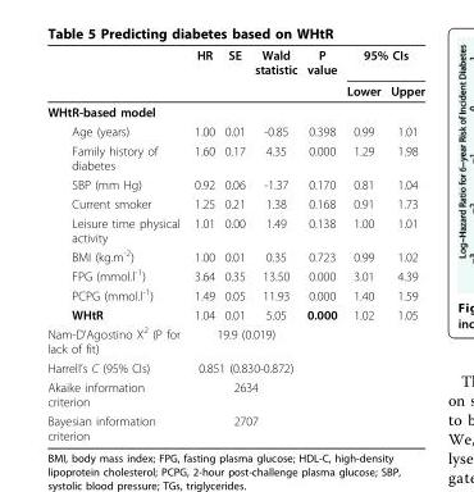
<table><thead><tr><td rowspan="2"></td><td rowspan="2">HR</td><td rowspan="2">SE</td><td rowspan="2">Wald statistic</td><td rowspan="2">P value</td><td colspan="2">95% CIs</td></tr><tr><td>Lower</td><td>Upper</td></tr></thead><tbody><tr><td colspan="7">WHtR-based model</td></tr><tr><td>Age (years)</td><td>1.00</td><td>0.01</td><td>-0.85</td><td>0.398</td><td>0.99</td><td>1.01</td></tr><tr><td>Family history of diabetes</td><td>1.60</td><td>0.17</td><td>4.35</td><td>0.000</td><td>1.29</td><td>1.98</td></tr><tr><td>SBP (mm Hg)</td><td>0.92</td><td>0.06</td><td>-1.37</td><td>0.170</td><td>0.81</td><td>1.04</td></tr><tr><td>Current smoker</td><td>1.25</td><td>0.21</td><td>1.38</td><td>0.168</td><td>0.91</td><td>1.73</td></tr><tr><td>Leisure time physical activity</td><td>1.01</td><td>0.00</td><td>1.49</td><td>0.138</td><td>1.00</td><td>1.01</td></tr><tr><td>BMI (kg.m<sup>-2</sup>)</td><td>1.00</td><td>0.01</td><td>0.35</td><td>0.723</td><td>0.99</td><td>1.02</td></tr><tr><td>FPG (mmol.l<sup>-1</sup>)</td><td>3.64</td><td>0.35</td><td>13.50</td><td>0.000</td><td>3.01</td><td>4.39</td></tr><tr><td>PCPG (mmol.l<sup>-1</sup>)</td><td>1.49</td><td>0.05</td><td>11.93</td><td>0.000</td><td>1.40</td><td>1.59</td></tr><tr><td>WHtR</td><td>1.04</td><td>0.01</td><td>5.05</td><td>0.000</td><td>1.02</td><td>1.05</td></tr><tr><td>Nam-D’Agostino X<sup>2</sup> (P for lack of fit)</td><td colspan="3">19.9 (0.019)</td><td></td><td></td><td></td></tr><tr><td>Harrell’s C (95% CIs)</td><td colspan="3">0.851 (0.830-0.872)</td><td></td><td></td><td></td></tr><tr><td>Akaike information criterion</td><td colspan="3">2634</td><td></td><td></td><td></td></tr><tr><td>Bayesian information criterion</td><td colspan="3">2707</td><td></td><td></td><td></td></tr></tbody></table>